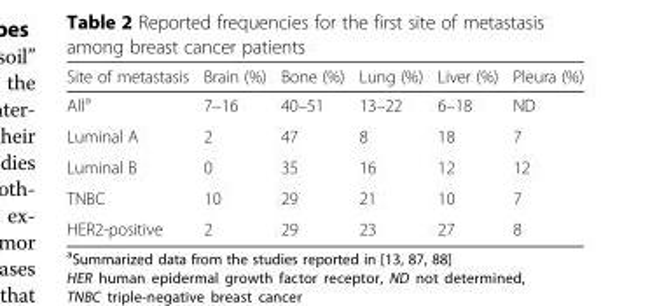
<table><thead><tr><td>Site of metastasis</td><td>Brain (%)</td><td>Bone (%)</td><td>Lung (%)</td><td>Liver (%)</td><td>Pleura (%)</td></tr></thead><tbody><tr><td>All<sup>a</sup></td><td>7–16</td><td>40–51</td><td>13–22</td><td>6–18</td><td>ND</td></tr><tr><td>Luminal A</td><td>2</td><td>47</td><td>8</td><td>18</td><td>7</td></tr><tr><td>Luminal B</td><td>0</td><td>35</td><td>16</td><td>12</td><td>12</td></tr><tr><td>TNBC</td><td>10</td><td>29</td><td>21</td><td>10</td><td>7</td></tr><tr><td>HER2-positive</td><td>2</td><td>29</td><td>23</td><td>27</td><td>8</td></tr></tbody></table>